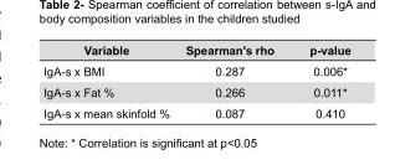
<table><thead><tr><td>Variable</td><td>Spearman&#x27;s rho</td><td>p-value</td></tr></thead><tbody><tr><td>IgA-s x BMI</td><td>0.287</td><td>0.006*</td></tr><tr><td>IgA-s x Fat %</td><td>0.266</td><td>0.011*</td></tr><tr><td>IgA-s x mean skinfold %</td><td>0.087</td><td>0.410</td></tr></tbody></table>